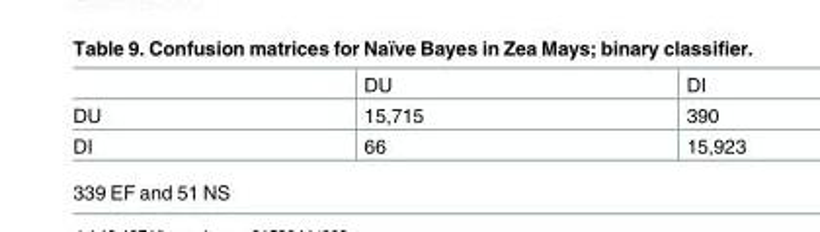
<table><thead><tr><td></td><td>DU</td><td>DI</td></tr></thead><tbody><tr><td>DU</td><td>15,715</td><td>390</td></tr><tr><td>DI</td><td>66</td><td>15,923</td></tr></tbody></table>